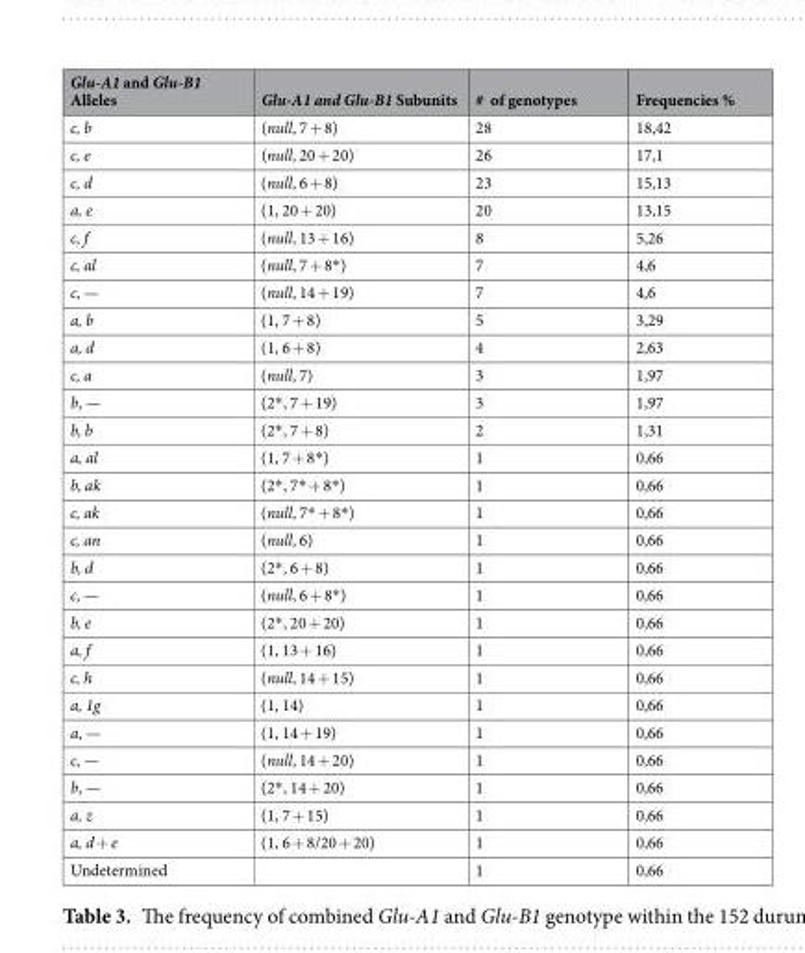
<table><thead><tr><td>Glu-A1 and Glu-B1 Alleles</td><td>Glu-A1 and Glu-B1 Subunits</td><td># of genotypes</td><td>Frequencies %</td></tr></thead><tbody><tr><td>c, b</td><td>(null, 7 + 8)</td><td>28</td><td>18,42</td></tr><tr><td>c, e</td><td>(null, 20 + 20)</td><td>26</td><td>17,1</td></tr><tr><td>c, d</td><td>(null, 6 + 8)</td><td>23</td><td>15,13</td></tr><tr><td>a, e</td><td>(1, 20 + 20)</td><td>20</td><td>13,15</td></tr><tr><td>c, f</td><td>(null, 13 + 16)</td><td>8</td><td>5,26</td></tr><tr><td>c, al</td><td>(null, 7 + 8*)</td><td>7</td><td>4,6</td></tr><tr><td>c, —</td><td>(null, 14 + 19)</td><td>7</td><td>4,6</td></tr><tr><td>a, b</td><td>(1, 7 + 8)</td><td>5</td><td>3,29</td></tr><tr><td>a, d</td><td>(1, 6 + 8)</td><td>4</td><td>2,63</td></tr><tr><td>c, a</td><td>(null, 7)</td><td>3</td><td>1,97</td></tr><tr><td>b, —</td><td>(2*, 7 + 19)</td><td>3</td><td>1,97</td></tr><tr><td>b, b</td><td>(2*, 7 + 8)</td><td>2</td><td>1,31</td></tr><tr><td>a, al</td><td>(1, 7 + 8*)</td><td>1</td><td>0,66</td></tr><tr><td>b, ak</td><td>(2*, 7* + 8*)</td><td>1</td><td>0,66</td></tr><tr><td>c, ak</td><td>(null, 7* + 8*)</td><td>1</td><td>0,66</td></tr><tr><td>c, an</td><td>(null, 6)</td><td>1</td><td>0,66</td></tr><tr><td>b, d</td><td>(2*, 6 + 8)</td><td>1</td><td>0,66</td></tr><tr><td>c, —</td><td>(null, 6 + 8*)</td><td>1</td><td>0,66</td></tr><tr><td>b, e</td><td>(2*, 20 + 20)</td><td>1</td><td>0,66</td></tr><tr><td>a, f</td><td>(1, 13 + 16)</td><td>1</td><td>0,66</td></tr><tr><td>c, h</td><td>(null, 14 + 15)</td><td>1</td><td>0,66</td></tr><tr><td>a, 1g</td><td>(1, 14)</td><td>1</td><td>0,66</td></tr><tr><td>a, —</td><td>(1, 14 + 19)</td><td>1</td><td>0,66</td></tr><tr><td>c, —</td><td>(null, 14 + 20)</td><td>1</td><td>0,66</td></tr><tr><td>b, —</td><td>(2*, 14 + 20)</td><td>1</td><td>0,66</td></tr><tr><td>a, z</td><td>(1, 7 + 15)</td><td>1</td><td>0,66</td></tr><tr><td>a, d + e</td><td>(1, 6 + 8/20 + 20)</td><td>1</td><td>0,66</td></tr><tr><td>Undetermined</td><td></td><td>1</td><td>0,66</td></tr></tbody></table>